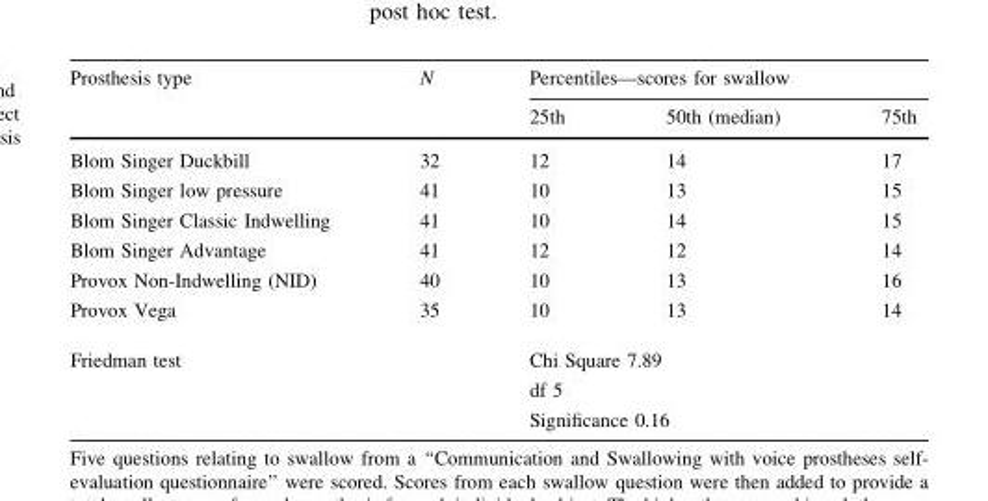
<table><thead><tr><td rowspan="2">Prosthesis type</td><td rowspan="2">N</td><td colspan="3">Percentiles—scores for swallow</td></tr><tr><td>25th</td><td>50th (median)</td><td>75th</td></tr></thead><tbody><tr><td>Blom Singer Duckbill</td><td>32</td><td>12</td><td>14</td><td>17</td></tr><tr><td>Blom Singer low pressure</td><td>41</td><td>10</td><td>13</td><td>15</td></tr><tr><td>Blom Singer Classic Indwelling</td><td>41</td><td>10</td><td>14</td><td>15</td></tr><tr><td>Blom Singer Advantage</td><td>41</td><td>12</td><td>12</td><td>14</td></tr><tr><td>Provox Non-Indwelling (NID)</td><td>40</td><td>10</td><td>13</td><td>16</td></tr><tr><td>Provox Vega</td><td>35</td><td>10</td><td>13</td><td>14</td></tr><tr><td rowspan="3" colspan="2">Friedman test</td><td colspan="3">Chi Square 7.89</td></tr><tr><td colspan="3">df 5</td></tr><tr><td colspan="3">Significance 0.16</td></tr></tbody></table>